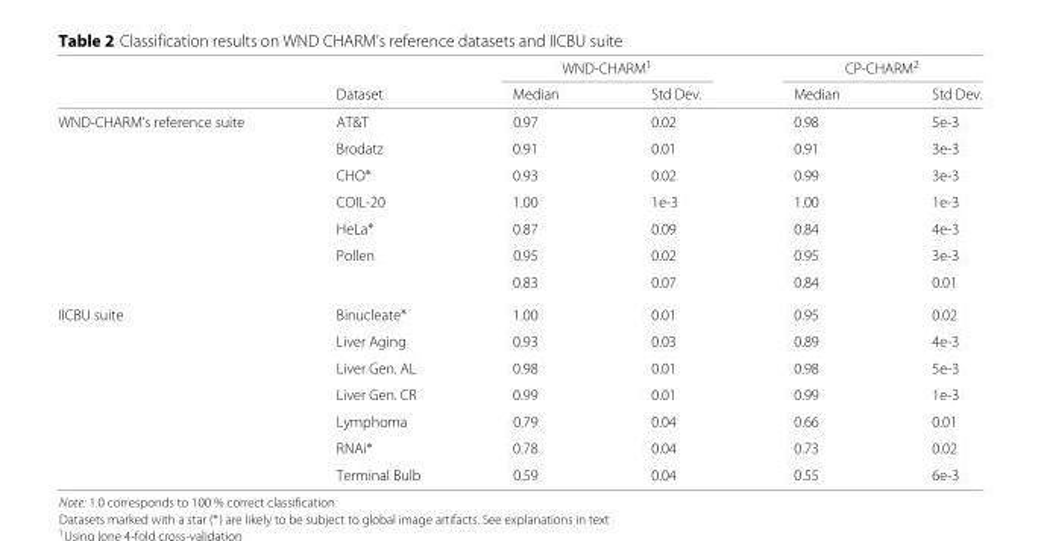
<table><thead><tr><td rowspan="2"></td><td rowspan="2">Dataset</td><td colspan="2">WND-CHARM<sup>1</sup></td><td colspan="2">CP-CHARM<sup>2</sup></td></tr><tr><td>Median</td><td>Std Dev.</td><td>Median</td><td>Std Dev.</td></tr></thead><tbody><tr><td rowspan="7">WND-CHARM’s reference suite</td><td>AT&amp;T</td><td>0.97</td><td>0.02</td><td>0.98</td><td>5e-3</td></tr><tr><td>Brodatz</td><td>0.91</td><td>0.01</td><td>0.91</td><td>3e-3</td></tr><tr><td>CHO∗</td><td>0.93</td><td>0.02</td><td>0.99</td><td>3e-3</td></tr><tr><td>COIL-20</td><td>1.00</td><td>1e-3</td><td>1.00</td><td>1e-3</td></tr><tr><td>HeLa∗</td><td>0.87</td><td>0.09</td><td>0.84</td><td>4e-3</td></tr><tr><td>Pollen</td><td>0.95</td><td>0.02</td><td>0.95</td><td>3e-3</td></tr><tr><td></td><td>0.83</td><td>0.07</td><td>0.84</td><td>0.01</td></tr><tr><td rowspan="7">IICBU suite</td><td>Binucleate∗</td><td>1.00</td><td>0.01</td><td>0.95</td><td>0.02</td></tr><tr><td>Liver Aging</td><td>0.93</td><td>0.03</td><td>0.89</td><td>4e-3</td></tr><tr><td>Liver Gen. AL</td><td>0.98</td><td>0.01</td><td>0.98</td><td>5e-3</td></tr><tr><td>Liver Gen. CR</td><td>0.99</td><td>0.01</td><td>0.99</td><td>1e-3</td></tr><tr><td>Lymphoma</td><td>0.79</td><td>0.04</td><td>0.66</td><td>0.01</td></tr><tr><td>RNAi∗</td><td>0.78</td><td>0.04</td><td>0.73</td><td>0.02</td></tr><tr><td>Terminal Bulb</td><td>0.59</td><td>0.04</td><td>0.55</td><td>6e-3</td></tr></tbody></table>